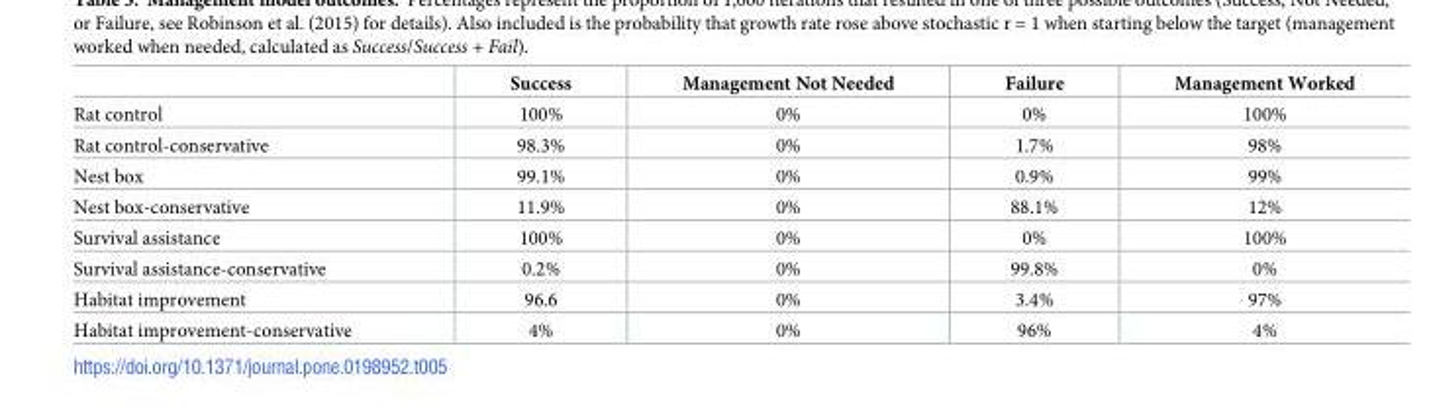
<table><thead><tr><td></td><td>Success</td><td>Management Not Needed</td><td>Failure</td><td>Management Worked</td></tr></thead><tbody><tr><td>Rat control</td><td>100%</td><td>0%</td><td>0%</td><td>100%</td></tr><tr><td>Rat control-conservative</td><td>98.3%</td><td>0%</td><td>1.7%</td><td>98%</td></tr><tr><td>Nest box</td><td>99.1%</td><td>0%</td><td>0.9%</td><td>99%</td></tr><tr><td>Nest box-conservative</td><td>11.9%</td><td>0%</td><td>88.1%</td><td>12%</td></tr><tr><td>Survival assistance</td><td>100%</td><td>0%</td><td>0%</td><td>100%</td></tr><tr><td>Survival assistance-conservative</td><td>0.2%</td><td>0%</td><td>99.8%</td><td>0%</td></tr><tr><td>Habitat improvement</td><td>96.6</td><td>0%</td><td>3.4%</td><td>97%</td></tr><tr><td>Habitat improvement-conservative</td><td>4%</td><td>0%</td><td>96%</td><td>4%</td></tr></tbody></table>